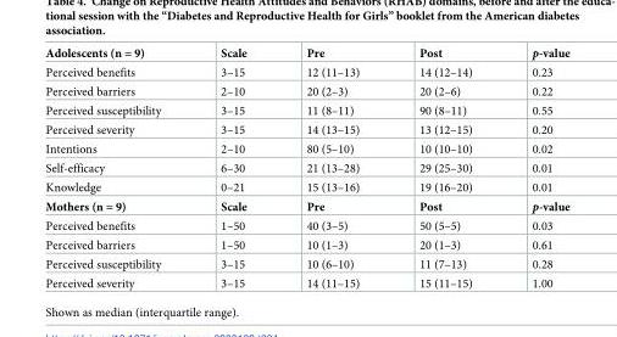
<table><tbody><tr><td>Adolescents (n = 9)</td><td>Scale</td><td>Pre</td><td>Post</td><td>p-value</td></tr><tr><td>Perceived benefits</td><td>3–15</td><td>12 (11–13)</td><td>14 (12–14)</td><td>0.23</td></tr><tr><td>Perceived barriers</td><td>2–10</td><td>20 (2–3)</td><td>20 (2–6)</td><td>0.22</td></tr><tr><td>Perceived susceptibility</td><td>3–15</td><td>11 (8–11)</td><td>90 (8–11)</td><td>0.55</td></tr><tr><td>Perceived severity</td><td>3–15</td><td>14 (13–15)</td><td>13 (12–15)</td><td>0.20</td></tr><tr><td>Intentions</td><td>2–10</td><td>80 (5–10)</td><td>10 (10–10)</td><td>0.02</td></tr><tr><td>Self-efficacy</td><td>6–30</td><td>21 (13–28)</td><td>29 (25–30)</td><td>0.01</td></tr><tr><td>Knowledge</td><td>0–21</td><td>15 (13–16)</td><td>19 (16–20)</td><td>0.01</td></tr><tr><td>Mothers (n = 9)</td><td>Scale</td><td>Pre</td><td>Post</td><td>p-value</td></tr><tr><td>Perceived benefits</td><td>1–50</td><td>40 (3–5)</td><td>50 (5–5)</td><td>0.03</td></tr><tr><td>Perceived barriers</td><td>1–50</td><td>10 (1–3)</td><td>20 (1–3)</td><td>0.61</td></tr><tr><td>Perceived susceptibility</td><td>3–15</td><td>10 (6–10)</td><td>11 (7–13)</td><td>0.28</td></tr><tr><td>Perceived severity</td><td>3–15</td><td>14 (11–15)</td><td>15 (11–15)</td><td>1.00</td></tr></tbody></table>